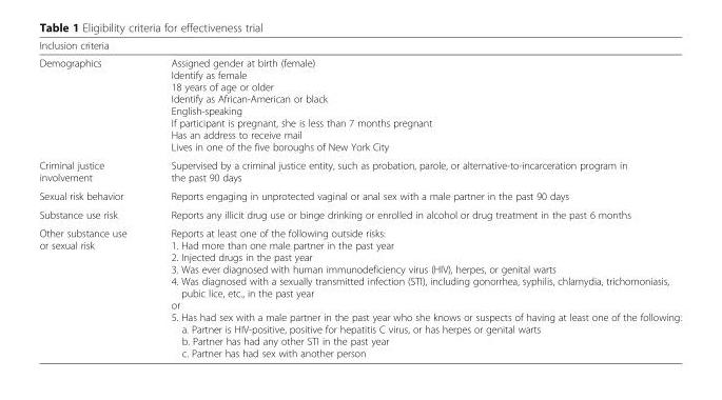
<table><thead><tr><td>Inclusion criteria</td><td></td></tr></thead><tbody><tr><td>Demographics</td><td>Assigned gender at birth (female) Identify as female 18 years of age or older Identify as African-American or black English-speaking If participant is pregnant, she is less than 7 months pregnant Has an address to receive mail Lives in one of the five boroughs of New York City</td></tr><tr><td>Criminal justice involvement</td><td>Supervised by a criminal justice entity, such as probation, parole, or alternative-to-incarceration program in the past 90 days</td></tr><tr><td>Sexual risk behavior</td><td>Reports engaging in unprotected vaginal or anal sex with a male partner in the past 90 days</td></tr><tr><td>Substance use risk</td><td>Reports any illicit drug use or binge drinking or enrolled in alcohol or drug treatment in the past 6 months</td></tr><tr><td>Other substance use or sexual risk</td><td>Reports at least one of the following outside risks: 1. Had more than one male partner in the past year 2. Injected drugs in the past year 3. Was ever diagnosed with human immunodeficiency virus (HIV), herpes, or genital warts 4. Was diagnosed with a sexually transmitted infection (STI), including gonorrhea, syphilis, chlamydia, trichomoniasis, pubic lice, etc., in the past year or 5. Has had sex with a male partner in the past year who she knows or suspects of having at least one of the following: a. Partner is HIV-positive, positive for hepatitis C virus, or has herpes or genital warts b. Partner has had any other STI in the past year c. Partner has had sex with another person</td></tr></tbody></table>